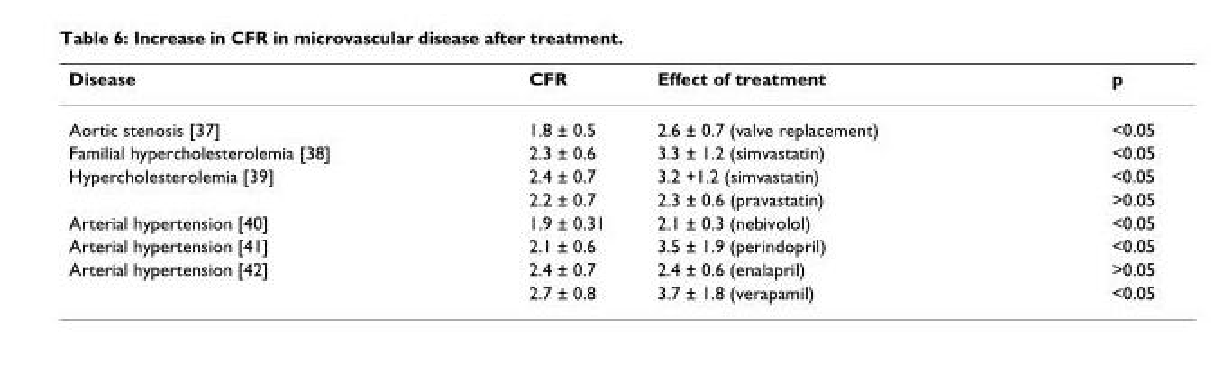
<table><thead><tr><td>Disease</td><td>CFR</td><td>Effect of treatment</td><td>p</td></tr></thead><tbody><tr><td>Aortic stenosis [37]</td><td>1.8 ± 0.5</td><td>2.6 ± 0.7 (valve replacement)</td><td>&lt;0.05</td></tr><tr><td>Familial hypercholesterolemia [38]</td><td>2.3 ± 0.6</td><td>3.3 ± 1.2 (simvastatin)</td><td>&lt;0.05</td></tr><tr><td rowspan="2">Hypercholesterolemia [39]</td><td>2.4 ± 0.7</td><td>3.2 +1.2 (simvastatin)</td><td>&lt;0.05</td></tr><tr><td>2.2 ± 0.7</td><td>2.3 ± 0.6 (pravastatin)</td><td>&gt;0.05</td></tr><tr><td>Arterial hypertension [40]</td><td>1.9 ± 0.31</td><td>2.1 ± 0.3 (nebivolol)</td><td>&lt;0.05</td></tr><tr><td>Arterial hypertension [41]</td><td>2.1 ± 0.6</td><td>3.5 ± 1.9 (perindopril)</td><td>&lt;0.05</td></tr><tr><td rowspan="2">Arterial hypertension [42]</td><td>2.4 ± 0.7</td><td>2.4 ± 0.6 (enalapril)</td><td>&gt;0.05</td></tr><tr><td>2.7 ± 0.8</td><td>3.7 ± 1.8 (verapamil)</td><td>&lt;0.05</td></tr></tbody></table>